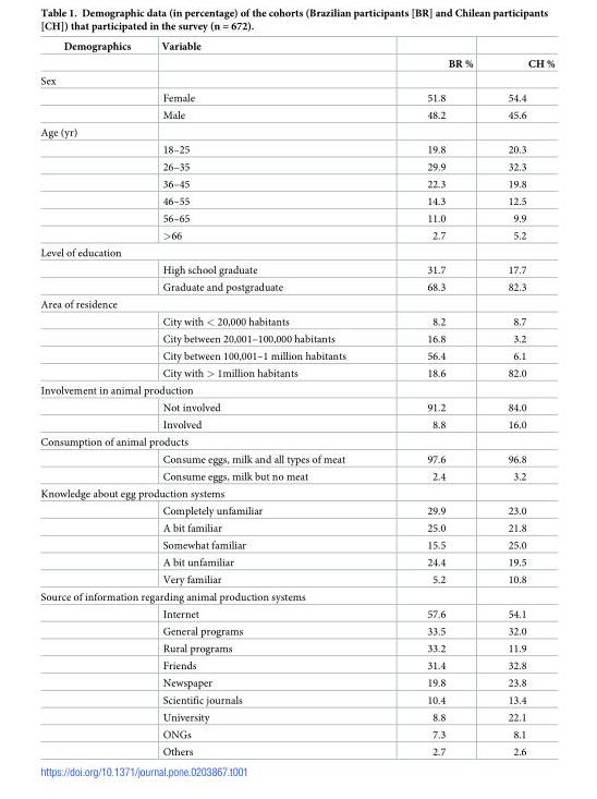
<table><thead><tr><td rowspan="2">Demographics</td><td rowspan="2">Variable</td><td rowspan="2">BR %</td><td rowspan="2">CH %</td></tr><tr></tr></thead><tbody><tr><td colspan="4">Sex</td></tr><tr><td></td><td>Female</td><td>51.8</td><td>54.4</td></tr><tr><td></td><td>Male</td><td>48.2</td><td>45.6</td></tr><tr><td colspan="4">Age (yr)</td></tr><tr><td></td><td>18–25</td><td>19.8</td><td>20.3</td></tr><tr><td></td><td>26–35</td><td>29.9</td><td>32.3</td></tr><tr><td></td><td>36–45</td><td>22.3</td><td>19.8</td></tr><tr><td></td><td>46–55</td><td>14.3</td><td>12.5</td></tr><tr><td></td><td>56–65</td><td>11.0</td><td>9.9</td></tr><tr><td></td><td>&gt;66</td><td>2.7</td><td>5.2</td></tr><tr><td colspan="4">Level of education</td></tr><tr><td></td><td>High school graduate</td><td>31.7</td><td>17.7</td></tr><tr><td></td><td>Graduate and postgraduate</td><td>68.3</td><td>82.3</td></tr><tr><td colspan="4">Area of residence</td></tr><tr><td></td><td>City with &lt; 20,000 habitants</td><td>8.2</td><td>8.7</td></tr><tr><td></td><td>City between 20,001–100,000 habitants</td><td>16.8</td><td>3.2</td></tr><tr><td></td><td>City between 100,001–1 million habitants</td><td>56.4</td><td>6.1</td></tr><tr><td></td><td>City with &gt; 1million habitants</td><td>18.6</td><td>82.0</td></tr><tr><td colspan="4">Involvement in animal production</td></tr><tr><td></td><td>Not involved</td><td>91.2</td><td>84.0</td></tr><tr><td></td><td>Involved</td><td>8.8</td><td>16.0</td></tr><tr><td colspan="4">Consumption of animal products</td></tr><tr><td></td><td>Consume eggs, milk and all types of meat</td><td>97.6</td><td>96.8</td></tr><tr><td></td><td>Consume eggs, milk but no meat</td><td>2.4</td><td>3.2</td></tr><tr><td colspan="4">Knowledge about egg production systems</td></tr><tr><td></td><td>Completely unfamiliar</td><td>29.9</td><td>23.0</td></tr><tr><td></td><td>A bit familiar</td><td>25.0</td><td>21.8</td></tr><tr><td></td><td>Somewhat familiar</td><td>15.5</td><td>25.0</td></tr><tr><td></td><td>A bit unfamiliar</td><td>24.4</td><td>19.5</td></tr><tr><td></td><td>Very familiar</td><td>5.2</td><td>10.8</td></tr><tr><td colspan="4">Source of information regarding animal production systems</td></tr><tr><td></td><td>Internet</td><td>57.6</td><td>54.1</td></tr><tr><td></td><td>General programs</td><td>33.5</td><td>32.0</td></tr><tr><td></td><td>Rural programs</td><td>33.2</td><td>11.9</td></tr><tr><td></td><td>Friends</td><td>31.4</td><td>32.8</td></tr><tr><td></td><td>Newspaper</td><td>19.8</td><td>23.8</td></tr><tr><td></td><td>Scientific journals</td><td>10.4</td><td>13.4</td></tr><tr><td></td><td>University</td><td>8.8</td><td>22.1</td></tr><tr><td></td><td>ONGs</td><td>7.3</td><td>8.1</td></tr><tr><td></td><td>Others</td><td>2.7</td><td>2.6</td></tr></tbody></table>